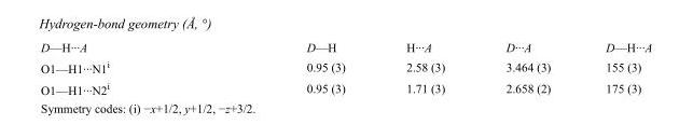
<table><tbody><tr><td>D—H···A</td><td>D—H</td><td>H···A</td><td>D···A</td><td>D—H···A</td></tr><tr><td>O1—H1···N1<sup>i</sup></td><td>0.95 (3)</td><td>2.58 (3)</td><td>3.464 (3)</td><td>155 (3)</td></tr><tr><td>O1—H1···N2<sup>i</sup></td><td>0.95 (3)</td><td>1.71 (3)</td><td>2.658 (2)</td><td>175 (3)</td></tr></tbody></table>